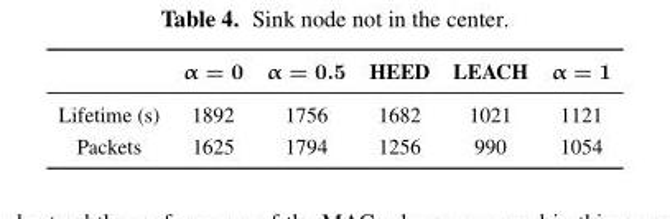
<table><thead><tr><td></td><td>α = 0</td><td>α = 0.5</td><td>HEED</td><td>LEACH</td><td>α = 1</td></tr></thead><tbody><tr><td>Lifetime (s)</td><td>1892</td><td>1756</td><td>1682</td><td>1021</td><td>1121</td></tr><tr><td>Packets</td><td>1625</td><td>1794</td><td>1256</td><td>990</td><td>1054</td></tr></tbody></table>